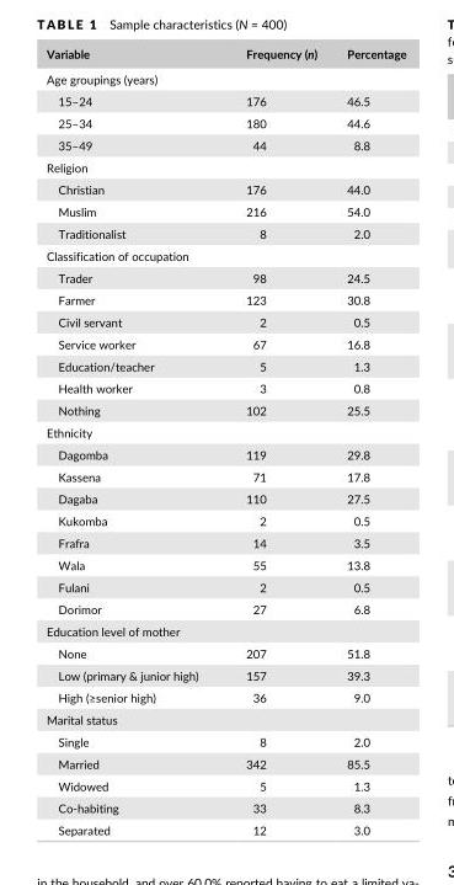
<table><thead><tr><td>Variable</td><td>Frequency (n)</td><td>Percentage</td></tr></thead><tbody><tr><td colspan="3">Age groupings (years)</td></tr><tr><td>15–24</td><td>176</td><td>46.5</td></tr><tr><td>25–34</td><td>180</td><td>44.6</td></tr><tr><td>35–49</td><td>44</td><td>8.8</td></tr><tr><td colspan="3">Religion</td></tr><tr><td>Christian</td><td>176</td><td>44.0</td></tr><tr><td>Muslim</td><td>216</td><td>54.0</td></tr><tr><td>Traditionalist</td><td>8</td><td>2.0</td></tr><tr><td colspan="3">Classification of occupation</td></tr><tr><td>Trader</td><td>98</td><td>24.5</td></tr><tr><td>Farmer</td><td>123</td><td>30.8</td></tr><tr><td>Civil servant</td><td>2</td><td>0.5</td></tr><tr><td>Service worker</td><td>67</td><td>16.8</td></tr><tr><td>Education/teacher</td><td>5</td><td>1.3</td></tr><tr><td>Health worker</td><td>3</td><td>0.8</td></tr><tr><td>Nothing</td><td>102</td><td>25.5</td></tr><tr><td colspan="3">Ethnicity</td></tr><tr><td>Dagomba</td><td>119</td><td>29.8</td></tr><tr><td>Kassena</td><td>71</td><td>17.8</td></tr><tr><td>Dagaba</td><td>110</td><td>27.5</td></tr><tr><td>Kukomba</td><td>2</td><td>0.5</td></tr><tr><td>Frafra</td><td>14</td><td>3.5</td></tr><tr><td>Wala</td><td>55</td><td>13.8</td></tr><tr><td>Fulani</td><td>2</td><td>0.5</td></tr><tr><td>Dorimor</td><td>27</td><td>6.8</td></tr><tr><td colspan="3">Education level of mother</td></tr><tr><td>None</td><td>207</td><td>51.8</td></tr><tr><td>Low (primary &amp; junior high)</td><td>157</td><td>39.3</td></tr><tr><td>High (≥senior high)</td><td>36</td><td>9.0</td></tr><tr><td colspan="3">Marital status</td></tr><tr><td>Single</td><td>8</td><td>2.0</td></tr><tr><td>Married</td><td>342</td><td>85.5</td></tr><tr><td>Widowed</td><td>5</td><td>1.3</td></tr><tr><td>Co- habiting</td><td>33</td><td>8.3</td></tr><tr><td>Separated</td><td>12</td><td>3.0</td></tr></tbody></table>